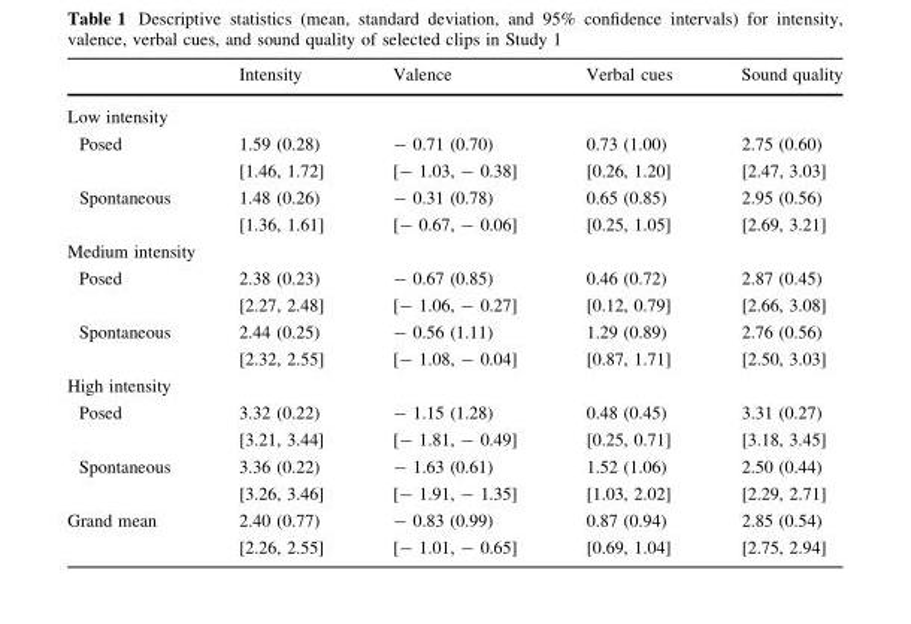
<table><thead><tr><td></td><td>Intensity</td><td>Valence</td><td>Verbal cues</td><td>Sound quality</td></tr></thead><tbody><tr><td colspan="5">Low intensity</td></tr><tr><td rowspan="2">Posed</td><td>1.59 (0.28)</td><td>- 0.71 (0.70)</td><td>0.73 (1.00)</td><td>2.75 (0.60)</td></tr><tr><td>[1.46, 1.72]</td><td>[- 1.03, - 0.38]</td><td>[0.26, 1.20]</td><td>[2.47, 3.03]</td></tr><tr><td rowspan="2">Spontaneous</td><td>1.48 (0.26)</td><td>- 0.31 (0.78)</td><td>0.65 (0.85)</td><td>2.95 (0.56)</td></tr><tr><td>[1.36, 1.61]</td><td>[- 0.67, - 0.06]</td><td>[0.25, 1.05]</td><td>[2.69, 3.21]</td></tr><tr><td colspan="5">Medium intensity</td></tr><tr><td rowspan="2">Posed</td><td>2.38 (0.23)</td><td>- 0.67 (0.85)</td><td>0.46 (0.72)</td><td>2.87 (0.45)</td></tr><tr><td>[2.27, 2.48]</td><td>[- 1.06, - 0.27]</td><td>[0.12, 0.79]</td><td>[2.66, 3.08]</td></tr><tr><td rowspan="2">Spontaneous</td><td>2.44 (0.25)</td><td>- 0.56 (1.11)</td><td>1.29 (0.89)</td><td>2.76 (0.56)</td></tr><tr><td>[2.32, 2.55]</td><td>[- 1.08, - 0.04]</td><td>[0.87, 1.71]</td><td>[2.50, 3.03]</td></tr><tr><td colspan="5">High intensity</td></tr><tr><td rowspan="2">Posed</td><td>3.32 (0.22)</td><td>- 1.15 (1.28)</td><td>0.48 (0.45)</td><td>3.31 (0.27)</td></tr><tr><td>[3.21, 3.44]</td><td>[- 1.81, - 0.49]</td><td>[0.25, 0.71]</td><td>[3.18, 3.45]</td></tr><tr><td rowspan="2">Spontaneous</td><td>3.36 (0.22)</td><td>- 1.63 (0.61)</td><td>1.52 (1.06)</td><td>2.50 (0.44)</td></tr><tr><td>[3.26, 3.46]</td><td>[- 1.91, - 1.35]</td><td>[1.03, 2.02]</td><td>[2.29, 2.71]</td></tr><tr><td rowspan="2">Grand mean</td><td>2.40 (0.77)</td><td>- 0.83 (0.99)</td><td>0.87 (0.94)</td><td>2.85 (0.54)</td></tr><tr><td>[2.26, 2.55]</td><td>[- 1.01, - 0.65]</td><td>[0.69, 1.04]</td><td>[2.75, 2.94]</td></tr></tbody></table>